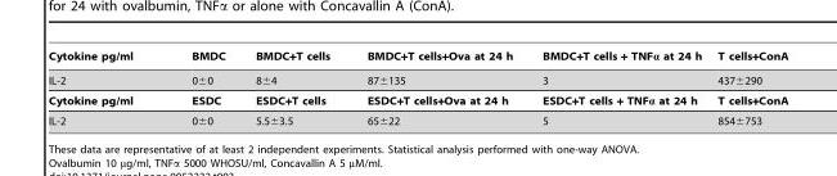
<table><thead><tr><td>Cytokine pg/ml</td><td>BMDC</td><td>BMDC+T cells</td><td>BMDC+T cells+Ova at 24 h</td><td>BMDC+T cells + TNFα at 24 h</td><td>T cells+ConA</td></tr></thead><tbody><tr><td>IL-2</td><td>0±0</td><td>8±4</td><td>87±135</td><td>3</td><td>437±290</td></tr><tr><td>Cytokine pg/ml</td><td>ESDC</td><td>ESDC+T cells</td><td>ESDC+T cells+Ova at 24 h</td><td>ESDC+T cells + TNFα at 24 h</td><td>T cells+ConA</td></tr><tr><td>IL-2</td><td>0±0</td><td>5.5±3.5</td><td>65±22</td><td>5</td><td>854±753</td></tr></tbody></table>